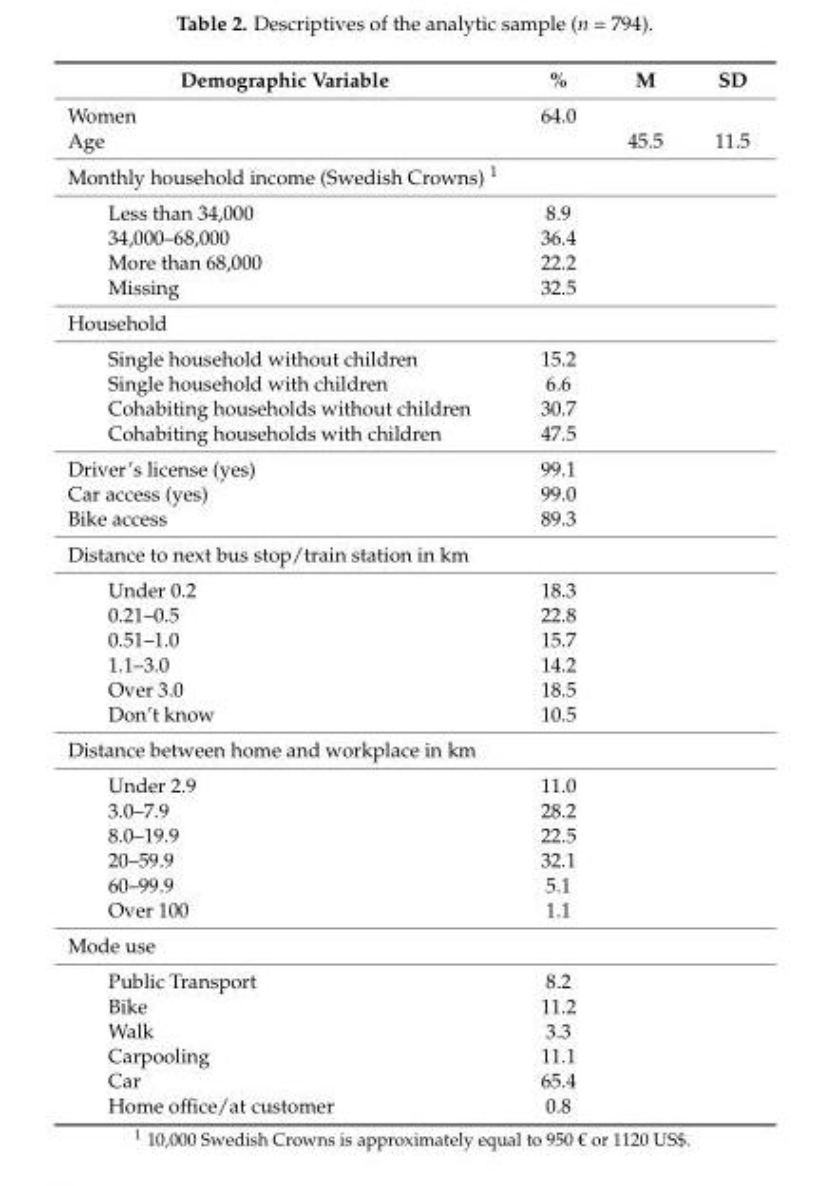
<table><thead><tr><td>Demographic Variable</td><td>%</td><td>M</td><td>SD</td></tr></thead><tbody><tr><td>Women</td><td>64.0</td><td></td><td></td></tr><tr><td>Age</td><td></td><td>45.5</td><td>11.5</td></tr><tr><td colspan="4">Monthly household income (Swedish Crowns) <sup>1</sup></td></tr><tr><td>Less than 34,000</td><td>8.9</td><td></td><td></td></tr><tr><td>34,000–68,000</td><td>36.4</td><td></td><td></td></tr><tr><td>More than 68,000</td><td>22.2</td><td></td><td></td></tr><tr><td>Missing</td><td>32.5</td><td></td><td></td></tr><tr><td colspan="4">Household</td></tr><tr><td>Single household without children</td><td>15.2</td><td></td><td></td></tr><tr><td>Single household with children</td><td>6.6</td><td></td><td></td></tr><tr><td>Cohabiting households without children</td><td>30.7</td><td></td><td></td></tr><tr><td>Cohabiting households with children</td><td>47.5</td><td></td><td></td></tr><tr><td>Driver’s license (yes)</td><td>99.1</td><td></td><td></td></tr><tr><td>Car access (yes)</td><td>99.0</td><td></td><td></td></tr><tr><td>Bike access</td><td>89.3</td><td></td><td></td></tr><tr><td colspan="4">Distance to next bus stop/train station in km</td></tr><tr><td>Under 0.2</td><td>18.3</td><td></td><td></td></tr><tr><td>0.21–0.5</td><td>22.8</td><td></td><td></td></tr><tr><td>0.51–1.0</td><td>15.7</td><td></td><td></td></tr><tr><td>1.1–3.0</td><td>14.2</td><td></td><td></td></tr><tr><td>Over 3.0</td><td>18.5</td><td></td><td></td></tr><tr><td>Don’t know</td><td>10.5</td><td></td><td></td></tr><tr><td colspan="4">Distance between home and workplace in km</td></tr><tr><td>Under 2.9</td><td>11.0</td><td></td><td></td></tr><tr><td>3.0–7.9</td><td>28.2</td><td></td><td></td></tr><tr><td>8.0–19.9</td><td>22.5</td><td></td><td></td></tr><tr><td>20–59.9</td><td>32.1</td><td></td><td></td></tr><tr><td>60–99.9</td><td>5.1</td><td></td><td></td></tr><tr><td>Over 100</td><td>1.1</td><td></td><td></td></tr><tr><td colspan="4">Mode use</td></tr><tr><td>Public Transport</td><td>8.2</td><td></td><td></td></tr><tr><td>Bike</td><td>11.2</td><td></td><td></td></tr><tr><td>Walk</td><td>3.3</td><td></td><td></td></tr><tr><td>Carpooling</td><td>11.1</td><td></td><td></td></tr><tr><td>Car</td><td>65.4</td><td></td><td></td></tr><tr><td>Home office/at customer</td><td>0.8</td><td></td><td></td></tr></tbody></table>